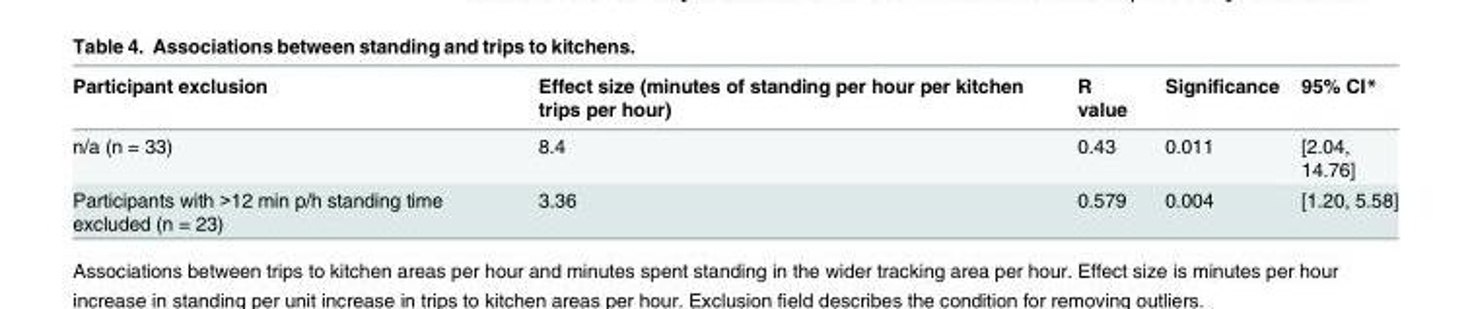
<table><thead><tr><td>Participant exclusion</td><td>Effect size (minutes of standing per hour per kitchen trips per hour)</td><td>R value</td><td>Significance</td><td>95% CI*</td></tr></thead><tbody><tr><td>n/a (n = 33)</td><td>8.4</td><td>0.43</td><td>0.011</td><td>[2.04, 14.76]</td></tr><tr><td>Participants with &gt;12 min p/h standing time excluded (n = 23)</td><td>3.36</td><td>0.579</td><td>0.004</td><td>[1.20, 5.58]</td></tr></tbody></table>